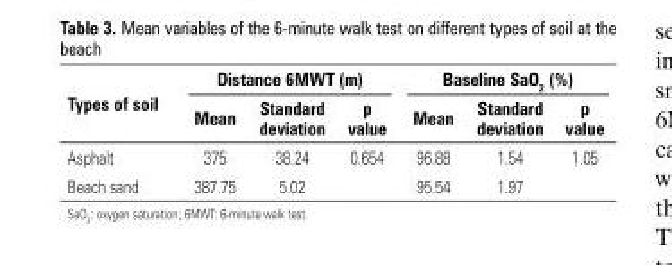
<table><thead><tr><td rowspan="2">Types of soil</td><td colspan="3">Distance 6MWT (m)</td><td colspan="3">Baseline SaO<sub>2</sub> (%)</td></tr><tr><td>Mean</td><td>Standard deviation</td><td>p value</td><td>Mean</td><td>Standard deviation</td><td>p value</td></tr></thead><tbody><tr><td>Asphalt</td><td>375</td><td>38.24</td><td>0.654</td><td>96.88</td><td>1.54</td><td>1.05</td></tr><tr><td>Beach sand</td><td>387.75</td><td>5.02</td><td></td><td>95.54</td><td>1.97</td><td></td></tr></tbody></table>